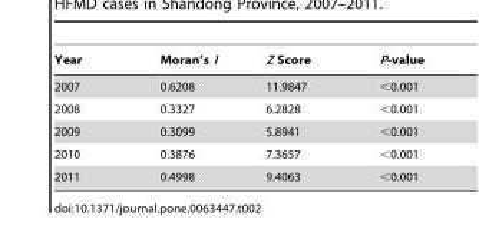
<table><thead><tr><td>Year</td><td>Moran’s I</td><td>Z Score</td><td>P-value</td></tr></thead><tbody><tr><td>2007</td><td>0.6208</td><td>11.9847</td><td>&lt;0.001</td></tr><tr><td>2008</td><td>0.3327</td><td>6.2828</td><td>&lt;0.001</td></tr><tr><td>2009</td><td>0.3099</td><td>5.8941</td><td>&lt;0.001</td></tr><tr><td>2010</td><td>0.3876</td><td>7.3657</td><td>&lt;0.001</td></tr><tr><td>2011</td><td>0.4998</td><td>9.4063</td><td>&lt;0.001</td></tr></tbody></table>